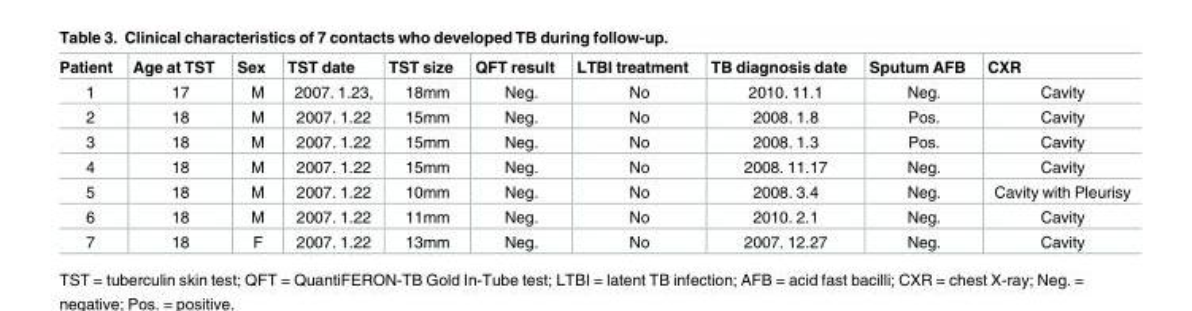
<table><thead><tr><td>Patient</td><td>Age at TST</td><td>Sex</td><td>TST date</td><td>TST size</td><td>QFT result</td><td>LTBI treatment</td><td>TB diagnosis date</td><td>Sputum AFB</td><td>CXR</td></tr></thead><tbody><tr><td>1</td><td>17</td><td>M</td><td>2007. 1.23,</td><td>18mm</td><td>Neg.</td><td>No</td><td>2010. 11.1</td><td>Neg.</td><td>Cavity</td></tr><tr><td>2</td><td>18</td><td>M</td><td>2007. 1.22</td><td>15mm</td><td>Neg.</td><td>No</td><td>2008. 1.8</td><td>Pos.</td><td>Cavity</td></tr><tr><td>3</td><td>18</td><td>M</td><td>2007. 1.22</td><td>15mm</td><td>Neg.</td><td>No</td><td>2008. 1.3</td><td>Pos.</td><td>Cavity</td></tr><tr><td>4</td><td>18</td><td>M</td><td>2007. 1.22</td><td>15mm</td><td>Neg.</td><td>No</td><td>2008. 11.17</td><td>Neg.</td><td>Cavity</td></tr><tr><td>5</td><td>18</td><td>M</td><td>2007. 1.22</td><td>10mm</td><td>Neg.</td><td>No</td><td>2008. 3.4</td><td>Neg.</td><td>Cavity with Pleurisy</td></tr><tr><td>6</td><td>18</td><td>M</td><td>2007. 1.22</td><td>11mm</td><td>Neg.</td><td>No</td><td>2010. 2.1</td><td>Neg.</td><td>Cavity</td></tr><tr><td>7</td><td>18</td><td>F</td><td>2007. 1.22</td><td>13mm</td><td>Neg.</td><td>No</td><td>2007. 12.27</td><td>Neg.</td><td>Cavity</td></tr></tbody></table>